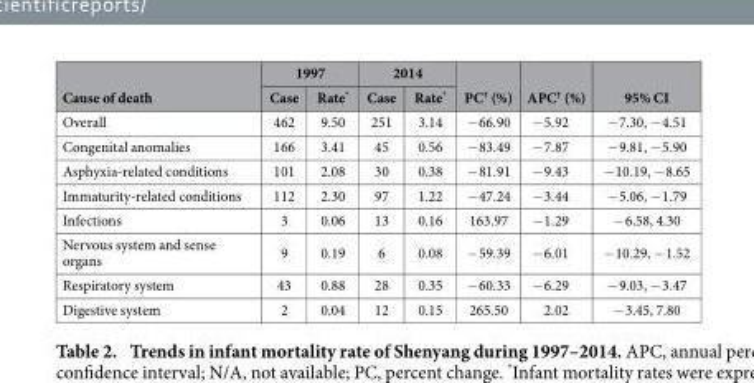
<table><thead><tr><td rowspan="2">Cause of death</td><td colspan="2">1997</td><td colspan="2">2014</td><td rowspan="2">PC† (%)</td><td rowspan="2">APC† (%)</td><td rowspan="2">95% CI</td></tr><tr><td>Case</td><td>Rate*</td><td>Case</td><td>Rate*</td></tr></thead><tbody><tr><td>Overall</td><td>462</td><td>9.50</td><td>251</td><td>3.14</td><td>− 66.90</td><td>− 5.92</td><td>− 7.30, − 4.51</td></tr><tr><td>Congenital anomalies</td><td>166</td><td>3.41</td><td>45</td><td>0.56</td><td>− 83.49</td><td>− 7.87</td><td>− 9.81, − 5.90</td></tr><tr><td>Asphyxia-related conditions</td><td>101</td><td>2.08</td><td>30</td><td>0.38</td><td>− 81.91</td><td>− 9.43</td><td>− 10.19, − 8.65</td></tr><tr><td>Immaturity-related conditions</td><td>112</td><td>2.30</td><td>97</td><td>1.22</td><td>− 47.24</td><td>− 3.44</td><td>− 5.06, − 1.79</td></tr><tr><td>Infections</td><td>3</td><td>0.06</td><td>13</td><td>0.16</td><td>163.97</td><td>− 1.29</td><td>− 6.58, 4.30</td></tr><tr><td>Nervous system and sense organs</td><td>9</td><td>0.19</td><td>6</td><td>0.08</td><td>− 59.39</td><td>− 6.01</td><td>− 10.29, − 1.52</td></tr><tr><td>Respiratory system</td><td>43</td><td>0.88</td><td>28</td><td>0.35</td><td>− 60.33</td><td>− 6.29</td><td>− 9.03, − 3.47</td></tr><tr><td>Digestive system</td><td>2</td><td>0.04</td><td>12</td><td>0.15</td><td>265.50</td><td>2.02</td><td>− 3.45, 7.80</td></tr></tbody></table>